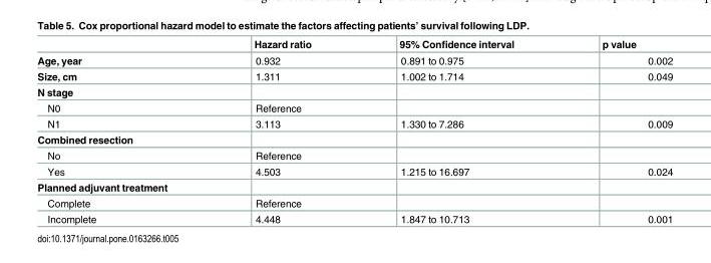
<table><thead><tr><td></td><td>Hazard ratio</td><td>95% Confidence interval</td><td>p value</td></tr></thead><tbody><tr><td>Age, year</td><td>0.932</td><td>0.891 to 0.975</td><td>0.002</td></tr><tr><td>Size, cm</td><td>1.311</td><td>1.002 to 1.714</td><td>0.049</td></tr><tr><td colspan="4">N stage</td></tr><tr><td>N0</td><td>Reference</td><td></td><td></td></tr><tr><td>N1</td><td>3.113</td><td>1.330 to 7.286</td><td>0.009</td></tr><tr><td colspan="4">Combined resection</td></tr><tr><td>No</td><td>Reference</td><td></td><td></td></tr><tr><td>Yes</td><td>4.503</td><td>1.215 to 16.697</td><td>0.024</td></tr><tr><td colspan="4">Planned adjuvant treatment</td></tr><tr><td>Complete</td><td>Reference</td><td></td><td></td></tr><tr><td>Incomplete</td><td>4.448</td><td>1.847 to 10.713</td><td>0.001</td></tr></tbody></table>